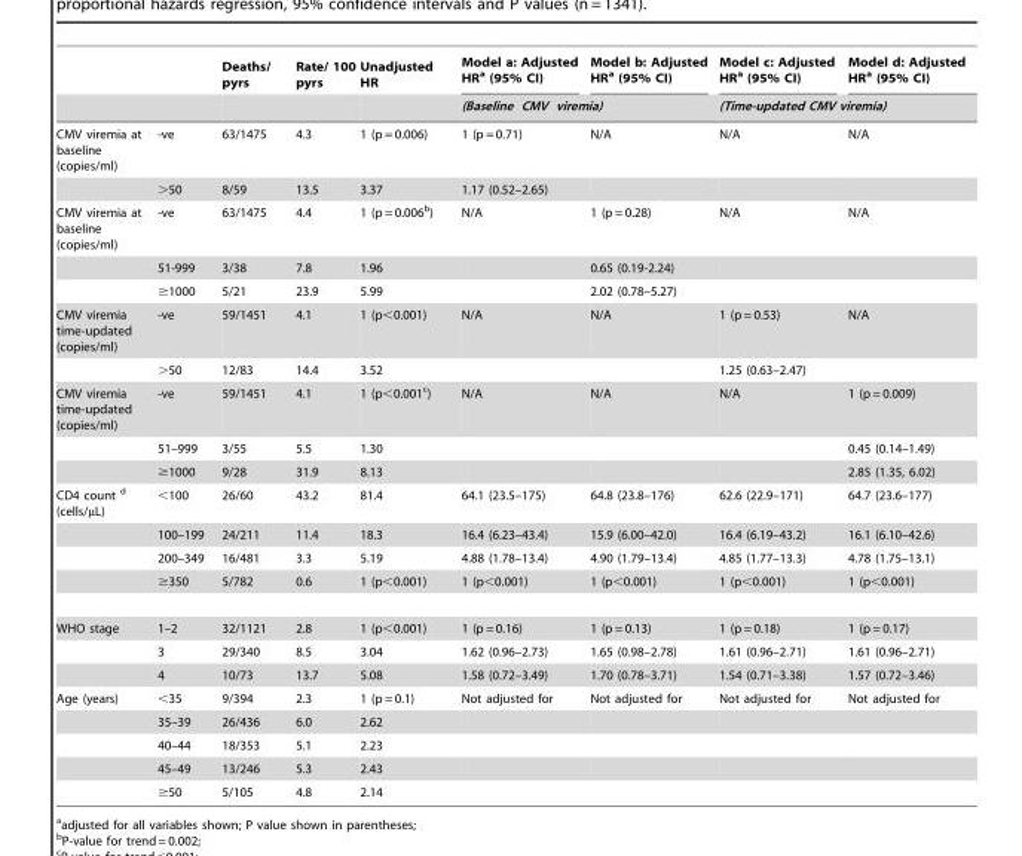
<table><thead><tr><td rowspan="2"></td><td rowspan="2"></td><td rowspan="2">Deaths/ pyrs</td><td rowspan="2">Rate/ 100 pyrs</td><td rowspan="2">Unadjusted HR</td><td>Model a: Adjusted HR<sup>a</sup> (95% CI)</td><td>Model b: Adjusted HR<sup>a</sup> (95% CI)</td><td>Model c: Adjusted HR<sup>a</sup> (95% CI)</td><td>Model d: Adjusted HR<sup>a</sup> (95% CI)</td></tr><tr><td colspan="2">(Baseline CMV viremia)</td><td colspan="2">(Time-updated CMV viremia)</td></tr></thead><tbody><tr><td rowspan="2">CMV viremia at baseline (copies/ml)</td><td>-ve</td><td>63/1475</td><td>4.3</td><td>1 (p = 0.006)</td><td>1 (p = 0.71)</td><td>N/A</td><td>N/A</td><td>N/A</td></tr><tr><td>&gt;50</td><td>8/59</td><td>13.5</td><td>3.37</td><td>1.17 (0.52–2.65)</td><td></td><td></td><td></td></tr><tr><td rowspan="3">CMV viremia at baseline (copies/ml)</td><td>-ve</td><td>63/1475</td><td>4.4</td><td>1 (p = 0.006<sup>b</sup>)</td><td>N/A</td><td>1 (p = 0.28)</td><td>N/A</td><td>N/A</td></tr><tr><td>51-999</td><td>3/38</td><td>7.8</td><td>1.96</td><td></td><td>0.65 (0.19-2.24)</td><td></td><td></td></tr><tr><td>≥1000</td><td>5/21</td><td>23.9</td><td>5.99</td><td></td><td>2.02 (0.78–5.27)</td><td></td><td></td></tr><tr><td rowspan="2">CMV viremia time-updated (copies/ml)</td><td>-ve</td><td>59/1451</td><td>4.1</td><td>1 (p&lt;0.001)</td><td>N/A</td><td>N/A</td><td>1 (p = 0.53)</td><td>N/A</td></tr><tr><td>&gt;50</td><td>12/83</td><td>14.4</td><td>3.52</td><td></td><td></td><td>1.25 (0.63–2.47)</td><td></td></tr><tr><td rowspan="3">CMV viremia time-updated (copies/ml)</td><td>-ve</td><td>59/1451</td><td>4.1</td><td>1 (p&lt;0.001<sup>c</sup>)</td><td>N/A</td><td>N/A</td><td>N/A</td><td>1 (p = 0.009)</td></tr><tr><td>51–999</td><td>3/55</td><td>5.5</td><td>1.30</td><td></td><td></td><td></td><td>0.45 (0.14–1.49)</td></tr><tr><td>≥1000</td><td>9/28</td><td>31.9</td><td>8.13</td><td></td><td></td><td></td><td>2.85 (1.35, 6.02)</td></tr><tr><td rowspan="4">CD4 count d (cells/µL)</td><td>&lt;100</td><td>26/60</td><td>43.2</td><td>81.4</td><td>64.1 (23.5–175)</td><td>64.8 (23.8–176)</td><td>62.6 (22.9–171)</td><td>64.7 (23.6–177)</td></tr><tr><td>100–199</td><td>24/211</td><td>11.4</td><td>18.3</td><td>16.4 (6.23–43.4)</td><td>15.9 (6.00–42.0)</td><td>16.4 (6.19–43.2)</td><td>16.1 (6.10–42.6)</td></tr><tr><td>200–349</td><td>16/481</td><td>3.3</td><td>5.19</td><td>4.88 (1.78–13.4)</td><td>4.90 (1.79–13.4)</td><td>4.85 (1.77–13.3)</td><td>4.78 (1.75–13.1)</td></tr><tr><td>≥350</td><td>5/782</td><td>0.6</td><td>1 (p&lt;0.001)</td><td>1 (p&lt;0.001)</td><td>1 (p&lt;0.001)</td><td>1 (p&lt;0.001)</td><td>1 (p&lt;0.001)</td></tr><tr><td rowspan="3">WHO stage</td><td>1–2</td><td>32/1121</td><td>2.8</td><td>1 (p&lt;0.001)</td><td>1 (p = 0.16)</td><td>1 (p = 0.13)</td><td>1 (p = 0.18)</td><td>1 (p = 0.17)</td></tr><tr><td>3</td><td>29/340</td><td>8.5</td><td>3.04</td><td>1.62 (0.96–2.73)</td><td>1.65 (0.98–2.78)</td><td>1.61 (0.96–2.71)</td><td>1.61 (0.96–2.71)</td></tr><tr><td>4</td><td>10/73</td><td>13.7</td><td>5.08</td><td>1.58 (0.72–3.49)</td><td>1.70 (0.78–3.71)</td><td>1.54 (0.71–3.38)</td><td>1.57 (0.72–3.46)</td></tr><tr><td rowspan="5">Age (years)</td><td>&lt;35</td><td>9/394</td><td>2.3</td><td>1 (p = 0.1)</td><td>Not adjusted for</td><td>Not adjusted for</td><td>Not adjusted for</td><td>Not adjusted for</td></tr><tr><td>35–39</td><td>26/436</td><td>6.0</td><td>2.62</td><td></td><td></td><td></td><td></td></tr><tr><td>40–44</td><td>18/353</td><td>5.1</td><td>2.23</td><td></td><td></td><td></td><td></td></tr><tr><td>45–49</td><td>13/246</td><td>5.3</td><td>2.43</td><td></td><td></td><td></td><td></td></tr><tr><td>≥50</td><td>5/105</td><td>4.8</td><td>2.14</td><td></td><td></td><td></td><td></td></tr></tbody></table>